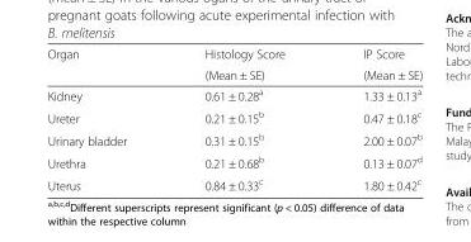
<table><thead><tr><td rowspan="2">Organ</td><td rowspan="2">Histology Score (Mean ± SE)</td><td rowspan="2">IP Score (Mean ± SE)</td></tr><tr></tr></thead><tbody><tr><td>Kidney</td><td>0.61 ± 0.28<sup>a</sup></td><td>1.33 ± 0.13<sup>a</sup></td></tr><tr><td>Ureter</td><td>0.21 ± 0.15<sup>b</sup></td><td>0.47 ± 0.18<sup>c</sup></td></tr><tr><td>Urinary bladder</td><td>0.31 ± 0.15<sup>b</sup></td><td>2.00 ± 0.07<sup>b</sup></td></tr><tr><td>Urethra</td><td>0.21 ± 0.68<sup>b</sup></td><td>0.13 ± 0.07<sup>d</sup></td></tr><tr><td>Uterus</td><td>0.84 ± 0.33<sup>c</sup></td><td>1.80 ± 0.42<sup>c</sup></td></tr></tbody></table>